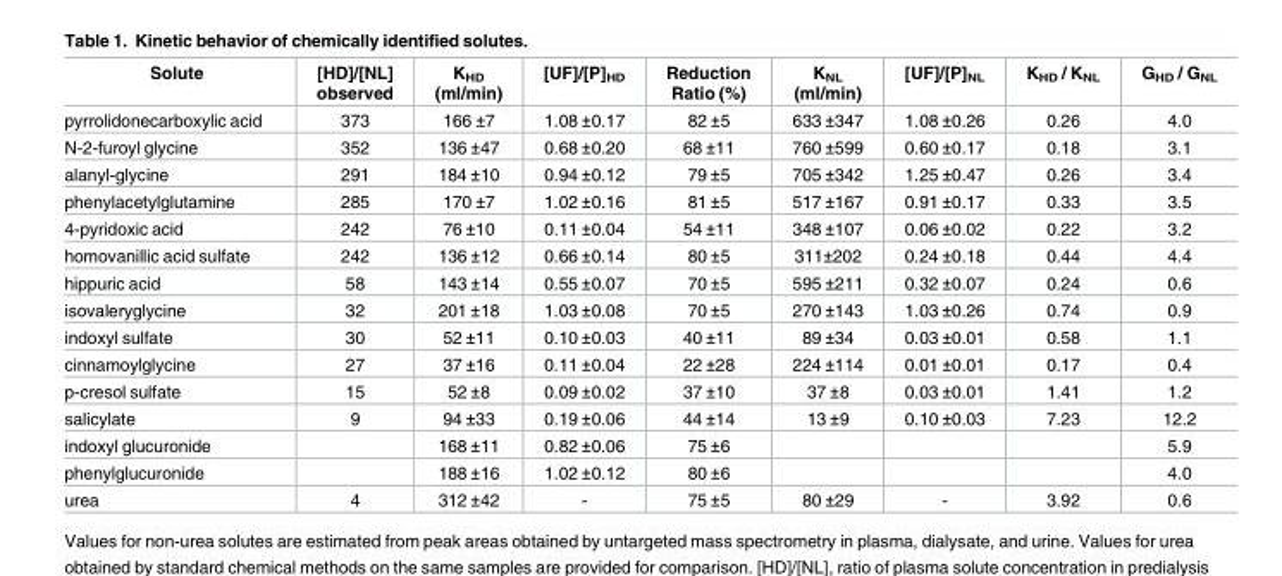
<table><thead><tr><td>Solute</td><td>[HD]/[NL] observed</td><td>K<sub>HD</sub> (ml/min)</td><td>[UF]/[P]<sub>HD</sub></td><td>Reduction Ratio (%)</td><td>K<sub>NL</sub> (ml/min)</td><td>[UF]/[P]<sub>NL</sub></td><td>K<sub>HD</sub> / K<sub>NL</sub></td><td>G<sub>HD</sub> / G<sub>NL</sub></td></tr></thead><tbody><tr><td>pyrrolidonecarboxylic acid</td><td>373</td><td>166 ±7</td><td>1.08 ±0.17</td><td>82 ±5</td><td>633 ±347</td><td>1.08 ±0.26</td><td>0.26</td><td>4.0</td></tr><tr><td>N-2-furoyl glycine</td><td>352</td><td>136 ±47</td><td>0.68 ±0.20</td><td>68 ±11</td><td>760 ±599</td><td>0.60 ±0.17</td><td>0.18</td><td>3.1</td></tr><tr><td>alanyl-glycine</td><td>291</td><td>184 ±10</td><td>0.94 ±0.12</td><td>79 ±5</td><td>705 ±342</td><td>1.25 ±0.47</td><td>0.26</td><td>3.4</td></tr><tr><td>phenylacetylglutamine</td><td>285</td><td>170 ±7</td><td>1.02 ±0.16</td><td>81 ±5</td><td>517 ±167</td><td>0.91 ±0.17</td><td>0.33</td><td>3.5</td></tr><tr><td>4-pyridoxic acid</td><td>242</td><td>76 ±10</td><td>0.11 ±0.04</td><td>54 ±11</td><td>348 ±107</td><td>0.06 ±0.02</td><td>0.22</td><td>3.2</td></tr><tr><td>homovanillic acid sulfate</td><td>242</td><td>136 ±12</td><td>0.66 ±0.14</td><td>80 ±5</td><td>311±202</td><td>0.24 ±0.18</td><td>0.44</td><td>4.4</td></tr><tr><td>hippuric acid</td><td>58</td><td>143 ±14</td><td>0.55 ±0.07</td><td>70 ±5</td><td>595 ±211</td><td>0.32 ±0.07</td><td>0.24</td><td>0.6</td></tr><tr><td>isovaleryglycine</td><td>32</td><td>201 ±18</td><td>1.03 ±0.08</td><td>70 ±5</td><td>270 ±143</td><td>1.03 ±0.26</td><td>0.74</td><td>0.9</td></tr><tr><td>indoxyl sulfate</td><td>30</td><td>52 ±11</td><td>0.10 ±0.03</td><td>40 ±11</td><td>89 ±34</td><td>0.03 ±0.01</td><td>0.58</td><td>1.1</td></tr><tr><td>cinnamoylglycine</td><td>27</td><td>37 ±16</td><td>0.11 ±0.04</td><td>22 ±28</td><td>224 ±114</td><td>0.01 ±0.01</td><td>0.17</td><td>0.4</td></tr><tr><td>p-cresol sulfate</td><td>15</td><td>52 ±8</td><td>0.09 ±0.02</td><td>37 ±10</td><td>37 ±8</td><td>0.03 ±0.01</td><td>1.41</td><td>1.2</td></tr><tr><td>salicylate</td><td>9</td><td>94 ±33</td><td>0.19 ±0.06</td><td>44 ±14</td><td>13 ±9</td><td>0.10 ±0.03</td><td>7.23</td><td>12.2</td></tr><tr><td>indoxyl glucuronide</td><td></td><td>168 ±11</td><td>0.82 ±0.06</td><td>75 ±6</td><td></td><td></td><td></td><td>5.9</td></tr><tr><td>phenylglucuronide</td><td></td><td>188 ±16</td><td>1.02 ±0.12</td><td>80 ±6</td><td></td><td></td><td></td><td>4.0</td></tr><tr><td>urea</td><td>4</td><td>312 ±42</td><td>-</td><td>75 ±5</td><td>80 ±29</td><td>-</td><td>3.92</td><td>0.6</td></tr></tbody></table>